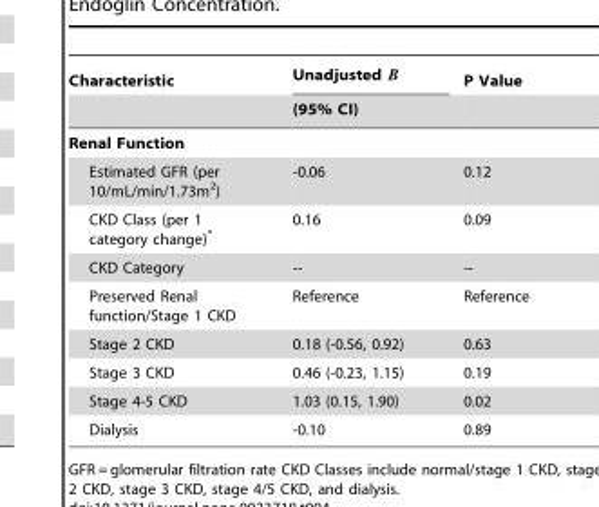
<table><thead><tr><td rowspan="2">Characteristic</td><td rowspan="2">Unadjusted B (95% CI)</td><td rowspan="2">P Value</td></tr><tr></tr></thead><tbody><tr><td colspan="3">Renal Function</td></tr><tr><td>Estimated GFR (per 10/mL/min/1.73m<sup>2</sup>)</td><td>-0.06</td><td>0.12</td></tr><tr><td>CKD Class (per 1 category change)*</td><td>0.16</td><td>0.09</td></tr><tr><td>CKD Category</td><td>--</td><td>--</td></tr><tr><td>Preserved Renal function/Stage 1 CKD</td><td>Reference</td><td>Reference</td></tr><tr><td>Stage 2 CKD</td><td>0.18 (-0.56, 0.92)</td><td>0.63</td></tr><tr><td>Stage 3 CKD</td><td>0.46 (-0.23, 1.15)</td><td>0.19</td></tr><tr><td>Stage 4-5 CKD</td><td>1.03 (0.15, 1.90)</td><td>0.02</td></tr><tr><td>Dialysis</td><td>-0.10</td><td>0.89</td></tr></tbody></table>